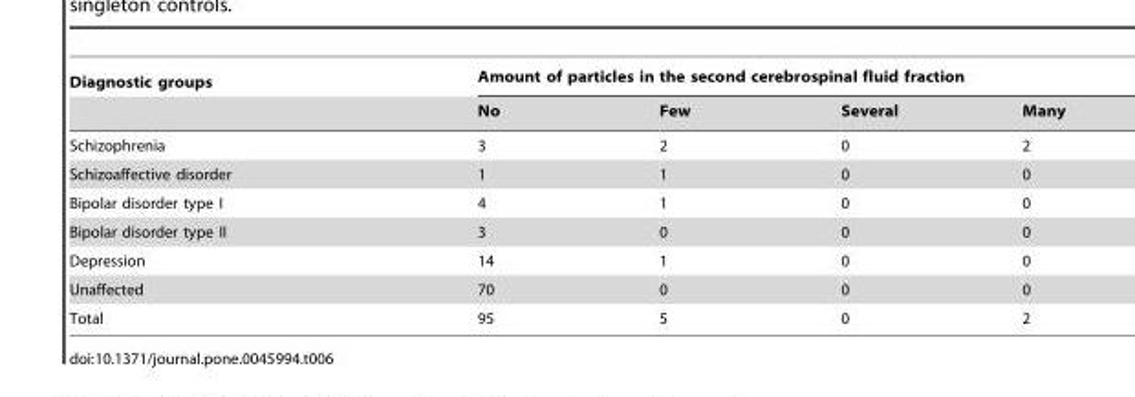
<table><thead><tr><td rowspan="2">Diagnostic groups</td><td colspan="4">Amount of particles in the second cerebrospinal fluid fraction</td></tr><tr><td>No</td><td>Few</td><td>Several</td><td>Many</td></tr></thead><tbody><tr><td>Schizophrenia</td><td>3</td><td>2</td><td>0</td><td>2</td></tr><tr><td>Schizoaffective disorder</td><td>1</td><td>1</td><td>0</td><td>0</td></tr><tr><td>Bipolar disorder type I</td><td>4</td><td>1</td><td>0</td><td>0</td></tr><tr><td>Bipolar disorder type II</td><td>3</td><td>0</td><td>0</td><td>0</td></tr><tr><td>Depression</td><td>14</td><td>1</td><td>0</td><td>0</td></tr><tr><td>Unaffected</td><td>70</td><td>0</td><td>0</td><td>0</td></tr><tr><td>Total</td><td>95</td><td>5</td><td>0</td><td>2</td></tr></tbody></table>